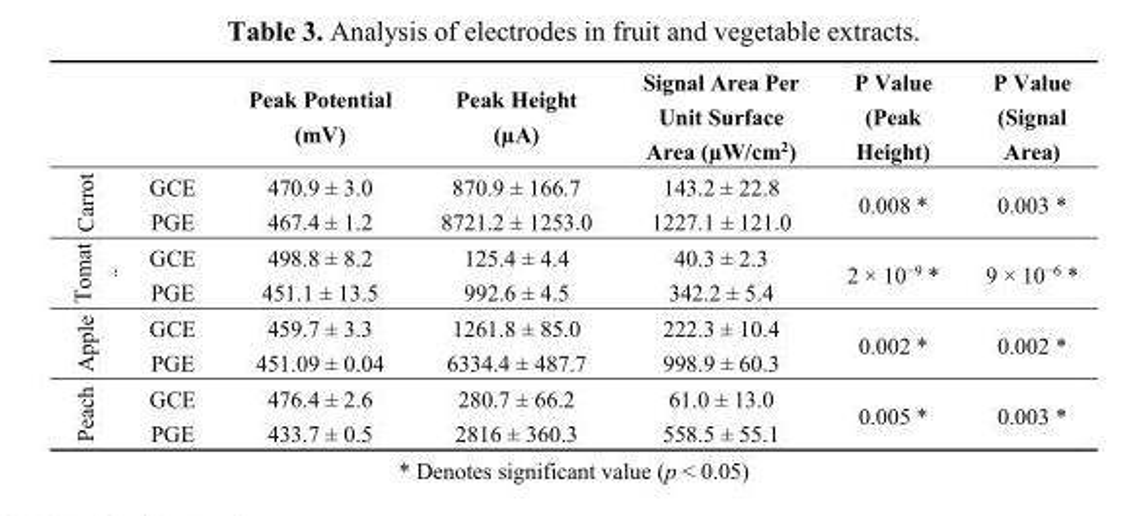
<table><thead><tr><td></td><td></td><td>Peak Potential (mV)</td><td>Peak Height (µA)</td><td>Signal Area Per Unit Surface Area (µW/cm<sup>2</sup>)</td><td>P Value (Peak Height)</td><td>P Value (Signal Area)</td></tr></thead><tbody><tr><td rowspan="2">Carrot</td><td>GCE</td><td>470.9 ± 3.0</td><td>870.9 ± 166.7</td><td>143.2 ± 22.8</td><td rowspan="2">0.008 *</td><td rowspan="2">0.003 *</td></tr><tr><td>PGE</td><td>467.4 ± 1.2</td><td>8721.2 ± 1253.0</td><td>1227.1 ± 121.0</td></tr><tr><td rowspan="2">Tomat o</td><td>GCE</td><td>498.8 ± 8.2</td><td>125.4 ± 4.4</td><td>40.3 ± 2.3</td><td rowspan="2">2 × 10<sup>−9</sup> *</td><td rowspan="2">9 × 10<sup>−6</sup> *</td></tr><tr><td>PGE</td><td>451.1 ± 13.5</td><td>992.6 ± 4.5</td><td>342.2 ± 5.4</td></tr><tr><td rowspan="2">Apple</td><td>GCE</td><td>459.7 ± 3.3</td><td>1261.8 ± 85.0</td><td>222.3 ± 10.4</td><td rowspan="2">0.002 *</td><td rowspan="2">0.002 *</td></tr><tr><td>PGE</td><td>451.09 ± 0.04</td><td>6334.4 ± 487.7</td><td>998.9 ± 60.3</td></tr><tr><td rowspan="2">Peach</td><td>GCE</td><td>476.4 ± 2.6</td><td>280.7 ± 66.2</td><td>61.0 ± 13.0</td><td rowspan="2">0.005 *</td><td rowspan="2">0.003 *</td></tr><tr><td>PGE</td><td>433.7 ± 0.5</td><td>2816 ± 360.3</td><td>558.5 ± 55.1</td></tr></tbody></table>